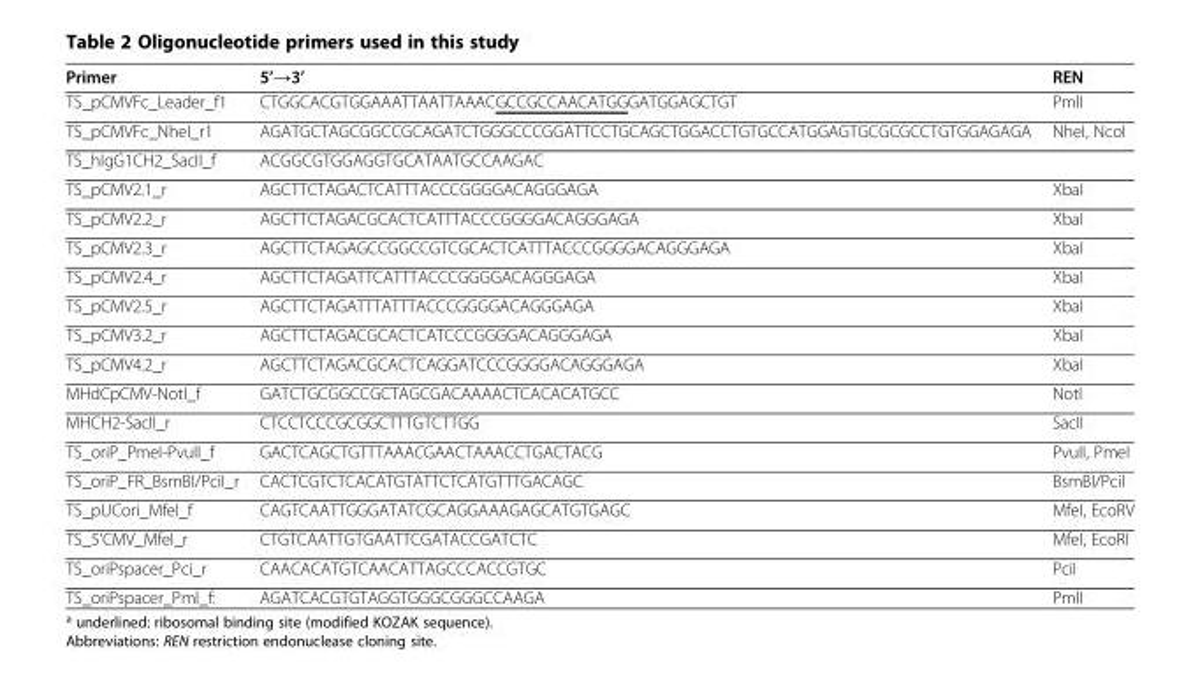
<table><thead><tr><td>Primer</td><td>5’→3’</td><td>REN</td></tr></thead><tbody><tr><td>TS_pCMVFc_Leader_f1</td><td>CTGGCACGTGGAAATTAATTAAACGCCGCCAACATGGGATGGAGCTGT</td><td>PmlI</td></tr><tr><td>TS_pCMVFc_NheI_r1</td><td>AGATGCTAGCGGCCGCAGATCTGGGCCCGGATTCCTGCAGCTGGACCTGTGCCATGGAGTGCGCGCCTGTGGAGAGA</td><td>NheI, NcoI</td></tr><tr><td>TS_hIgG1CH2_SacII_f</td><td>ACGGCGTGGAGGTGCATAATGCCAAGAC</td><td></td></tr><tr><td>TS_pCMV2.1_r</td><td>AGCTTCTAGACTCATTTACCCGGGGACAGGGAGA</td><td>XbaI</td></tr><tr><td>TS_pCMV2.2_r</td><td>AGCTTCTAGACGCACTCATTTACCCGGGGACAGGGAGA</td><td>XbaI</td></tr><tr><td>TS_pCMV2.3_r</td><td>AGCTTCTAGAGCCGGCCGTCGCACTCATTTACCCGGGGACAGGGAGA</td><td>XbaI</td></tr><tr><td>TS_pCMV2.4_r</td><td>AGCTTCTAGATTCATTTACCCGGGGACAGGGAGA</td><td>XbaI</td></tr><tr><td>TS_pCMV2.5_r</td><td>AGCTTCTAGATTTATTTACCCGGGGACAGGGAGA</td><td>XbaI</td></tr><tr><td>TS_pCMV3.2_r</td><td>AGCTTCTAGACGCACTCATCCCGGGGACAGGGAGA</td><td>XbaI</td></tr><tr><td>TS_pCMV4.2_r</td><td>AGCTTCTAGACGCACTCAGGATCCCGGGGACAGGGAGA</td><td>XbaI</td></tr><tr><td>MHdCpCMV-NotI_f</td><td>GATCTGCGGCCGCTAGCGACAAAACTCACACATGCC</td><td>NotI</td></tr><tr><td>MHCH2-SacII_r</td><td>CTCCTCCCGCGGCTTTGTCTTGG</td><td>SacII</td></tr><tr><td>TS_oriP_PmeI-PvuII_f</td><td>GACTCAGCTGTTTAAACGAACTAAACCTGACTACG</td><td>PvuII, PmeI</td></tr><tr><td>TS_oriP_FR_BsmBI/PciI_r</td><td>CACTCGTCTCACATGTATTCTCATGTTTGACAGC</td><td>BsmBI/PciI</td></tr><tr><td>TS_pUCori_MfeI_f</td><td>CAGTCAATTGGGATATCGCAGGAAAGAGCATGTGAGC</td><td>MfeI, EcoRV</td></tr><tr><td>TS_5’CMV_MfeI_r</td><td>CTGTCAATTGTGAATTCGATACCGATCTC</td><td>MfeI, EcoRI</td></tr><tr><td>TS_oriPspacer_Pci_r</td><td>CAACACATGTCAACATTAGCCCACCGTGC</td><td>PciI</td></tr><tr><td>TS_oriPspacer_Pml_f:</td><td>AGATCACGTGTAGGTGGGCGGGCCAAGA</td><td>PmlI</td></tr></tbody></table>